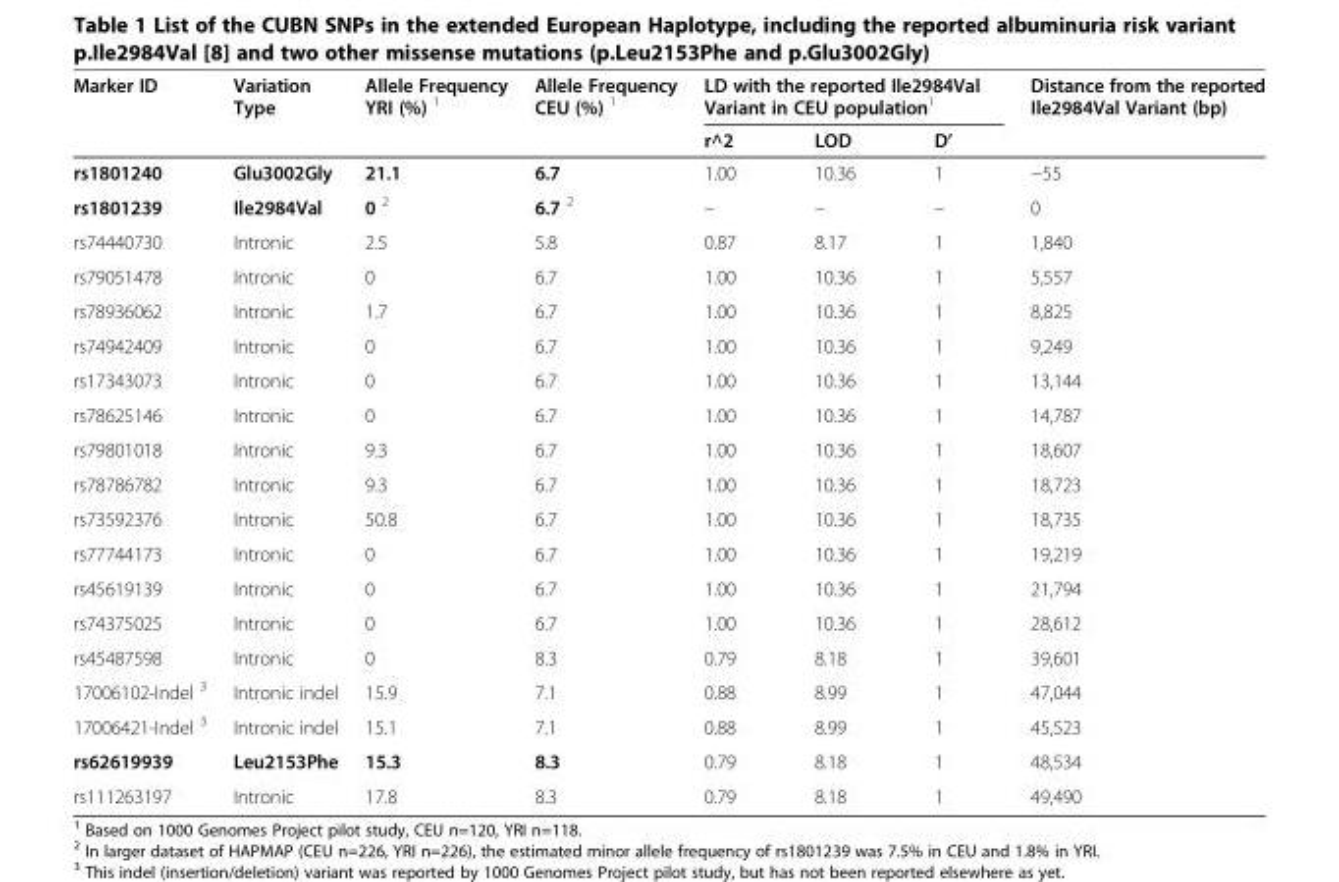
<table><thead><tr><td rowspan="2">Marker ID</td><td rowspan="2">Variation Type</td><td rowspan="2">Allele Frequency YRI (%) <sup>1</sup></td><td rowspan="2">Allele Frequency CEU (%) <sup>1</sup></td><td colspan="3">LD with the reported Ile2984Val Variant in CEU population<sup>1</sup></td><td rowspan="2">Distance from the reported Ile2984Val Variant (bp)</td></tr><tr><td>r^2</td><td>LOD</td><td>D’</td></tr></thead><tbody><tr><td>rs1801240</td><td>Glu3002Gly</td><td>21.1</td><td>6.7</td><td>1.00</td><td>10.36</td><td>1</td><td>−55</td></tr><tr><td>rs1801239</td><td>Ile2984Val</td><td>0 <sup>2</sup></td><td>6.7 <sup>2</sup></td><td>–</td><td>–</td><td>–</td><td>0</td></tr><tr><td>rs74440730</td><td>Intronic</td><td>2.5</td><td>5.8</td><td>0.87</td><td>8.17</td><td>1</td><td>1,840</td></tr><tr><td>rs79051478</td><td>Intronic</td><td>0</td><td>6.7</td><td>1.00</td><td>10.36</td><td>1</td><td>5,557</td></tr><tr><td>rs78936062</td><td>Intronic</td><td>1.7</td><td>6.7</td><td>1.00</td><td>10.36</td><td>1</td><td>8,825</td></tr><tr><td>rs74942409</td><td>Intronic</td><td>0</td><td>6.7</td><td>1.00</td><td>10.36</td><td>1</td><td>9,249</td></tr><tr><td>rs17343073</td><td>Intronic</td><td>0</td><td>6.7</td><td>1.00</td><td>10.36</td><td>1</td><td>13,144</td></tr><tr><td>rs78625146</td><td>Intronic</td><td>0</td><td>6.7</td><td>1.00</td><td>10.36</td><td>1</td><td>14,787</td></tr><tr><td>rs79801018</td><td>Intronic</td><td>9.3</td><td>6.7</td><td>1.00</td><td>10.36</td><td>1</td><td>18,607</td></tr><tr><td>rs78786782</td><td>Intronic</td><td>9.3</td><td>6.7</td><td>1.00</td><td>10.36</td><td>1</td><td>18,723</td></tr><tr><td>rs73592376</td><td>Intronic</td><td>50.8</td><td>6.7</td><td>1.00</td><td>10.36</td><td>1</td><td>18,735</td></tr><tr><td>rs77744173</td><td>Intronic</td><td>0</td><td>6.7</td><td>1.00</td><td>10.36</td><td>1</td><td>19,219</td></tr><tr><td>rs45619139</td><td>Intronic</td><td>0</td><td>6.7</td><td>1.00</td><td>10.36</td><td>1</td><td>21,794</td></tr><tr><td>rs74375025</td><td>Intronic</td><td>0</td><td>6.7</td><td>1.00</td><td>10.36</td><td>1</td><td>28,612</td></tr><tr><td>rs45487598</td><td>Intronic</td><td>0</td><td>8.3</td><td>0.79</td><td>8.18</td><td>1</td><td>39,601</td></tr><tr><td>17006102-Indel <sup>3</sup></td><td>Intronic indel</td><td>15.9</td><td>7.1</td><td>0.88</td><td>8.99</td><td>1</td><td>47,044</td></tr><tr><td>17006421-Indel <sup>3</sup></td><td>Intronic indel</td><td>15.1</td><td>7.1</td><td>0.88</td><td>8.99</td><td>1</td><td>45,523</td></tr><tr><td>rs62619939</td><td>Leu2153Phe</td><td>15.3</td><td>8.3</td><td>0.79</td><td>8.18</td><td>1</td><td>48,534</td></tr><tr><td>rs111263197</td><td>Intronic</td><td>17.8</td><td>8.3</td><td>0.79</td><td>8.18</td><td>1</td><td>49,490</td></tr></tbody></table>